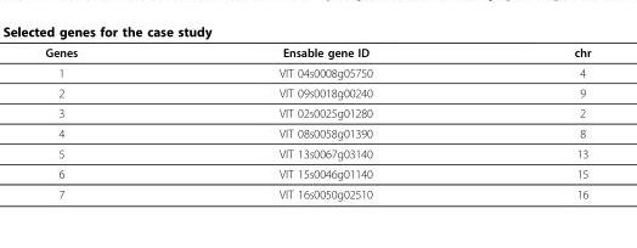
<table><thead><tr><td>Genes</td><td>Ensable gene ID</td><td>chr</td></tr></thead><tbody><tr><td>1</td><td>VIT 04s0008g05750</td><td>4</td></tr><tr><td>2</td><td>VIT 09s0018g00240</td><td>9</td></tr><tr><td>3</td><td>VIT 02s0025g01280</td><td>2</td></tr><tr><td>4</td><td>VIT 08s0058g01390</td><td>8</td></tr><tr><td>5</td><td>VIT 13s0067g03140</td><td>13</td></tr><tr><td>6</td><td>VIT 15s0046g01140</td><td>15</td></tr><tr><td>7</td><td>VIT 16s0050g02510</td><td>16</td></tr></tbody></table>